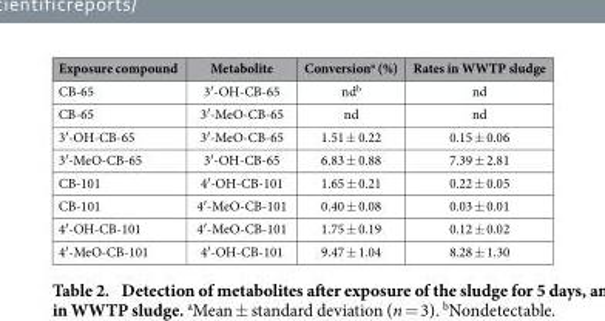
<table><thead><tr><td>Exposure compound</td><td>Metabolite</td><td>Conversion<sup>a</sup> (%)</td><td>Rates in WWTP sludge</td></tr></thead><tbody><tr><td>CB-65</td><td>3′ -OH-CB-65</td><td>nd<sup>b</sup></td><td>nd</td></tr><tr><td>CB-65</td><td>3′ -MeO-CB-65</td><td>nd</td><td>nd</td></tr><tr><td>3′ -OH-CB-65</td><td>3′ -MeO-CB-65</td><td>1.51 ± 0.22</td><td>0.15 ± 0.06</td></tr><tr><td>3′ -MeO-CB-65</td><td>3′ -OH-CB-65</td><td>6.83 ± 0.88</td><td>7.39 ± 2.81</td></tr><tr><td>CB-101</td><td>4′ -OH-CB-101</td><td>1.65 ± 0.21</td><td>0.22 ± 0.05</td></tr><tr><td>CB-101</td><td>4′ -MeO-CB-101</td><td>0.40 ± 0.08</td><td>0.03 ± 0.01</td></tr><tr><td>4′ -OH-CB-101</td><td>4′ -MeO-CB-101</td><td>1.75 ± 0.19</td><td>0.12 ± 0.02</td></tr><tr><td>4′ -MeO-CB-101</td><td>4′ -OH-CB-101</td><td>9.47 ± 1.04</td><td>8.28 ± 1.30</td></tr></tbody></table>